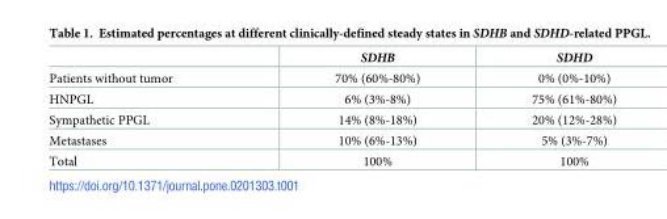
<table><thead><tr><td></td><td>SDHB</td><td>SDHD</td></tr></thead><tbody><tr><td>Patients without tumor</td><td>70% (60%-80%)</td><td>0% (0%-10%)</td></tr><tr><td>HNPGL</td><td>6% (3%-8%)</td><td>75% (61%-80%)</td></tr><tr><td>Sympathetic PPGL</td><td>14% (8%-18%)</td><td>20% (12%-28%)</td></tr><tr><td>Metastases</td><td>10% (6%-13%)</td><td>5% (3%-7%)</td></tr><tr><td>Total</td><td>100%</td><td>100%</td></tr></tbody></table>